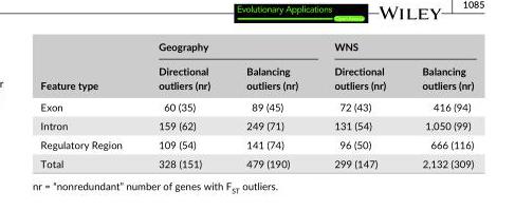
<table><thead><tr><td rowspan="2">Feature type</td><td colspan="2">Geography</td><td colspan="2">WNS</td></tr><tr><td>Directional outliers (nr)</td><td>Balancing outliers (nr)</td><td>Directional outliers (nr)</td><td>Balancing outliers (nr)</td></tr></thead><tbody><tr><td>Exon</td><td>60 (35)</td><td>89 (45)</td><td>72 (43)</td><td>416 (94)</td></tr><tr><td>Intron</td><td>159 (62)</td><td>249 (71)</td><td>131 (54)</td><td>1,050 (99)</td></tr><tr><td>Regulatory Region</td><td>109 (54)</td><td>141 (74)</td><td>96 (50)</td><td>666 (116)</td></tr><tr><td>Total</td><td>328 (151)</td><td>479 (190)</td><td>299 (147)</td><td>2,132 (309)</td></tr></tbody></table>